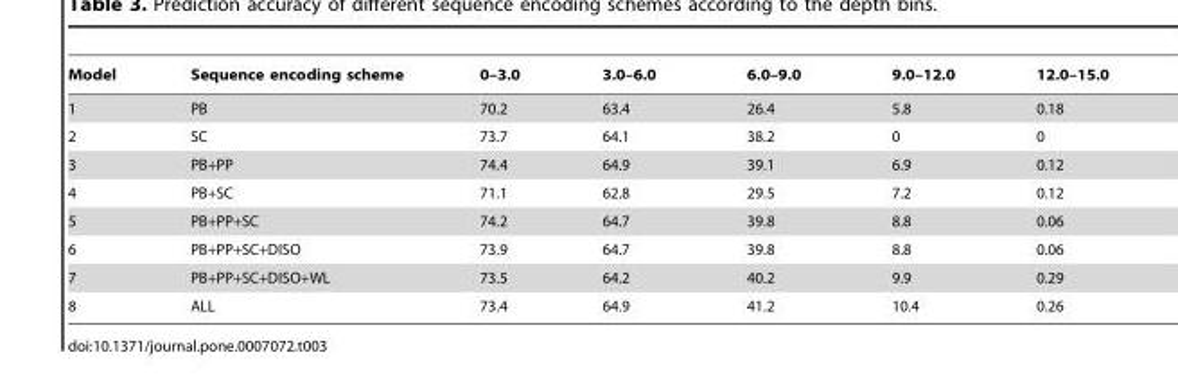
<table><thead><tr><td>Model</td><td>Sequence encoding scheme</td><td>0–3.0</td><td>3.0–6.0</td><td>6.0–9.0</td><td>9.0–12.0</td><td>12.0–15.0</td></tr></thead><tbody><tr><td>1</td><td>PB</td><td>70.2</td><td>63.4</td><td>26.4</td><td>5.8</td><td>0.18</td></tr><tr><td>2</td><td>SC</td><td>73.7</td><td>64.1</td><td>38.2</td><td>0</td><td>0</td></tr><tr><td>3</td><td>PB+PP</td><td>74.4</td><td>64.9</td><td>39.1</td><td>6.9</td><td>0.12</td></tr><tr><td>4</td><td>PB+SC</td><td>71.1</td><td>62.8</td><td>29.5</td><td>7.2</td><td>0.12</td></tr><tr><td>5</td><td>PB+PP+SC</td><td>74.2</td><td>64.7</td><td>39.8</td><td>8.8</td><td>0.06</td></tr><tr><td>6</td><td>PB+PP+SC+DISO</td><td>73.9</td><td>64.7</td><td>39.8</td><td>8.8</td><td>0.06</td></tr><tr><td>7</td><td>PB+PP+SC+DISO+WL</td><td>73.5</td><td>64.2</td><td>40.2</td><td>9.9</td><td>0.29</td></tr><tr><td>8</td><td>ALL</td><td>73.4</td><td>64.9</td><td>41.2</td><td>10.4</td><td>0.26</td></tr></tbody></table>